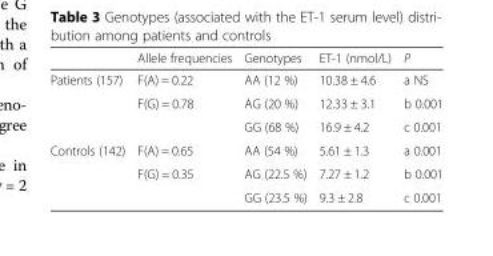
<table><thead><tr><td></td><td>Allele frequencies</td><td>Genotypes</td><td>ET-1 (nmol/L)</td><td>P</td></tr></thead><tbody><tr><td rowspan="3">Patients (157)</td><td>F(A) = 0.22</td><td>AA (12 %)</td><td>10.38 ± 4.6</td><td>a NS</td></tr><tr><td rowspan="2">F(G) = 0.78</td><td>AG (20 %)</td><td>12.33 ± 3.1</td><td>b 0.001</td></tr><tr><td>GG (68 %)</td><td>16.9 ± 4.2</td><td>c 0.001</td></tr><tr><td rowspan="3">Controls (142)</td><td>F(A) = 0.65</td><td>AA (54 %)</td><td>5.61 ± 1.3</td><td>a 0.001</td></tr><tr><td rowspan="2">F(G) = 0.35</td><td>AG (22.5 %)</td><td>7.27 ± 1.2</td><td>b 0.001</td></tr><tr><td>GG (23.5 %)</td><td>9.3 ± 2.8</td><td>c 0.001</td></tr></tbody></table>